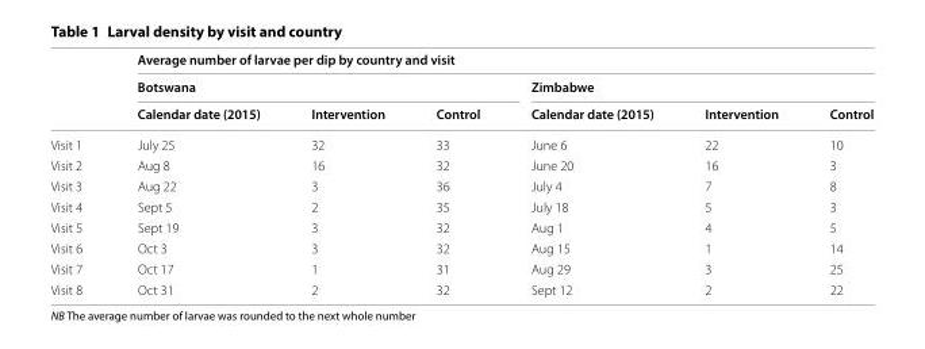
<table><thead><tr><td rowspan="3"></td><td colspan="6">Average number of larvae per dip by country and visit</td></tr><tr><td colspan="3">Botswana</td><td colspan="3">Zimbabwe</td></tr><tr><td>Calendar date (2015)</td><td>Intervention</td><td>Control</td><td>Calendar date (2015)</td><td>Intervention</td><td>Control</td></tr></thead><tbody><tr><td>Visit 1</td><td>July 25</td><td>32</td><td>33</td><td>June 6</td><td>22</td><td>10</td></tr><tr><td>Visit 2</td><td>Aug 8</td><td>16</td><td>32</td><td>June 20</td><td>16</td><td>3</td></tr><tr><td>Visit 3</td><td>Aug 22</td><td>3</td><td>36</td><td>July 4</td><td>7</td><td>8</td></tr><tr><td>Visit 4</td><td>Sept 5</td><td>2</td><td>35</td><td>July 18</td><td>5</td><td>3</td></tr><tr><td>Visit 5</td><td>Sept 19</td><td>3</td><td>32</td><td>Aug 1</td><td>4</td><td>5</td></tr><tr><td>Visit 6</td><td>Oct 3</td><td>3</td><td>32</td><td>Aug 15</td><td>1</td><td>14</td></tr><tr><td>Visit 7</td><td>Oct 17</td><td>1</td><td>31</td><td>Aug 29</td><td>3</td><td>25</td></tr><tr><td>Visit 8</td><td>Oct 31</td><td>2</td><td>32</td><td>Sept 12</td><td>2</td><td>22</td></tr></tbody></table>